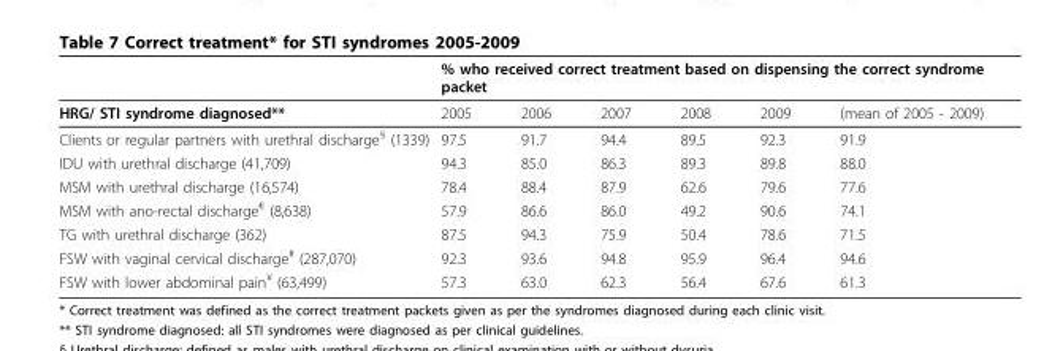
<table><thead><tr><td rowspan="2">HRG/ STI syndrome diagnosed**</td><td colspan="6">% who received correct treatment based on dispensing the correct syndrome packet</td></tr><tr><td>2005</td><td>2006</td><td>2007</td><td>2008</td><td>2009</td><td>(mean of 2005 - 2009)</td></tr></thead><tbody><tr><td>Clients or regular partners with urethral discharge<sup>§</sup> (1339)</td><td>97.5</td><td>91.7</td><td>94.4</td><td>89.5</td><td>92.3</td><td>91.9</td></tr><tr><td>IDU with urethral discharge (41,709)</td><td>94.3</td><td>85.0</td><td>86.3</td><td>89.3</td><td>89.8</td><td>88.0</td></tr><tr><td>MSM with urethral discharge (16,574)</td><td>78.4</td><td>88.4</td><td>87.9</td><td>62.6</td><td>79.6</td><td>77.6</td></tr><tr><td>MSM with ano-rectal discharge<sup>€</sup> (8,638)</td><td>57.9</td><td>86.6</td><td>86.0</td><td>49.2</td><td>90.6</td><td>74.1</td></tr><tr><td>TG with urethral discharge (362)</td><td>87.5</td><td>94.3</td><td>75.9</td><td>50.4</td><td>78.6</td><td>71.5</td></tr><tr><td>FSW with vaginal cervical discharge<sup>#</sup> (287,070)</td><td>92.3</td><td>93.6</td><td>94.8</td><td>95.9</td><td>96.4</td><td>94.6</td></tr><tr><td>FSW with lower abdominal pain<sup>¥</sup> (63,499)</td><td>57.3</td><td>63.0</td><td>62.3</td><td>56.4</td><td>67.6</td><td>61.3</td></tr></tbody></table>